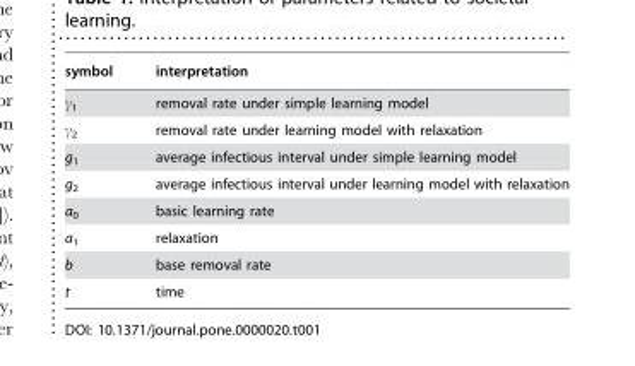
<table><thead><tr><td>symbol</td><td>interpretation</td></tr></thead><tbody><tr><td>γ<sub>1</sub></td><td>removal rate under simple learning model</td></tr><tr><td>γ<sub>2</sub></td><td>removal rate under learning model with relaxation</td></tr><tr><td>g<sub>1</sub></td><td>average infectious interval under simple learning model</td></tr><tr><td>g<sub>2</sub></td><td>average infectious interval under learning model with relaxation</td></tr><tr><td>a<sub>0</sub></td><td>basic learning rate</td></tr><tr><td>a<sub>1</sub></td><td>relaxation</td></tr><tr><td>b</td><td>base removal rate</td></tr><tr><td>t</td><td>time</td></tr></tbody></table>